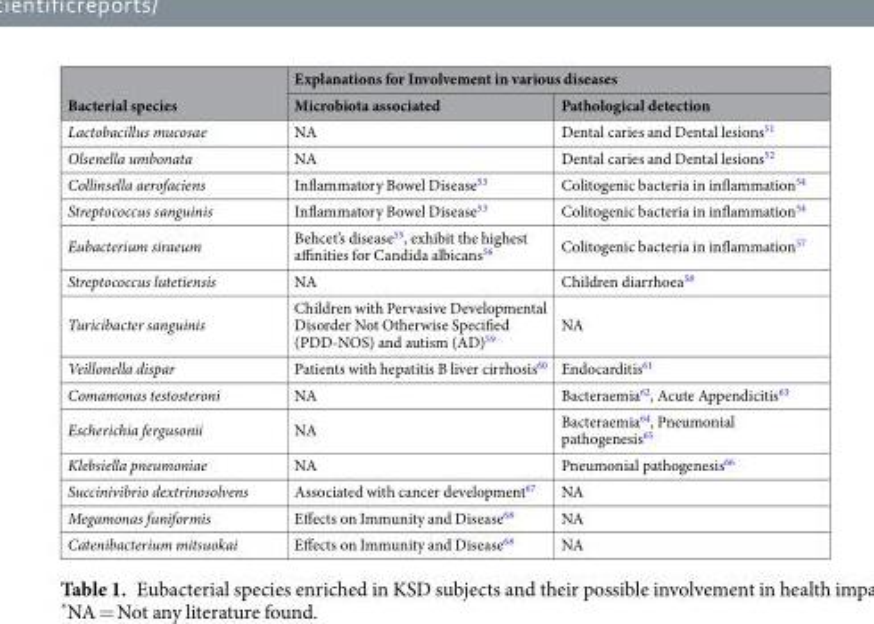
<table><thead><tr><td rowspan="2">Bacterial species</td><td colspan="2">Explanations for Involvement in various diseases</td></tr><tr><td>Microbiota associated</td><td>Pathological detection</td></tr></thead><tbody><tr><td>Lactobacillus mucosae</td><td>NA</td><td>Dental caries and Dental lesions<sup>51</sup></td></tr><tr><td>Olsenella umbonata</td><td>NA</td><td>Dental caries and Dental lesions<sup>52</sup></td></tr><tr><td>Collinsella aerofaciens</td><td>Inflammatory Bowel Disease<sup>53</sup></td><td>Colitogenic bacteria in inflammation<sup>54</sup></td></tr><tr><td>Streptococcus sanguinis</td><td>Inflammatory Bowel Disease<sup>53</sup></td><td>Colitogenic bacteria in inflammation<sup>54</sup></td></tr><tr><td>Eubacterium siraeum</td><td>Behcet’s disease<sup>55</sup>, exhibit the highest affinities for Candida albicans<sup>56</sup></td><td>Colitogenic bacteria in inflammation<sup>57</sup></td></tr><tr><td>Streptococcus lutetiensis</td><td>NA</td><td>Children diarrhoea<sup>58</sup></td></tr><tr><td>Turicibacter sanguinis</td><td>Children with Pervasive Developmental Disorder Not Otherwise Specified (PDD-NOS) and autism (AD)<sup>59</sup></td><td>NA</td></tr><tr><td>Veillonella dispar</td><td>Patients with hepatitis B liver cirrhosis<sup>60</sup></td><td>Endocarditis<sup>61</sup></td></tr><tr><td>Comamonas testosteroni</td><td>NA</td><td>Bacteraemia<sup>62</sup>, Acute Appendicitis<sup>63</sup></td></tr><tr><td>Escherichia fergusonii</td><td>NA</td><td>Bacteraemia<sup>64</sup>, Pneumonial pathogenesis<sup>65</sup></td></tr><tr><td>Klebsiella pneumoniae</td><td>NA</td><td>Pneumonial pathogenesis<sup>66</sup></td></tr><tr><td>Succinivibrio dextrinosolvens</td><td>Associated with cancer development<sup>67</sup></td><td>NA</td></tr><tr><td>Megamonas funiformis</td><td>Effects on Immunity and Disease<sup>68</sup></td><td>NA</td></tr><tr><td>Catenibacterium mitsuokai</td><td>Effects on Immunity and Disease<sup>68</sup></td><td>NA</td></tr></tbody></table>